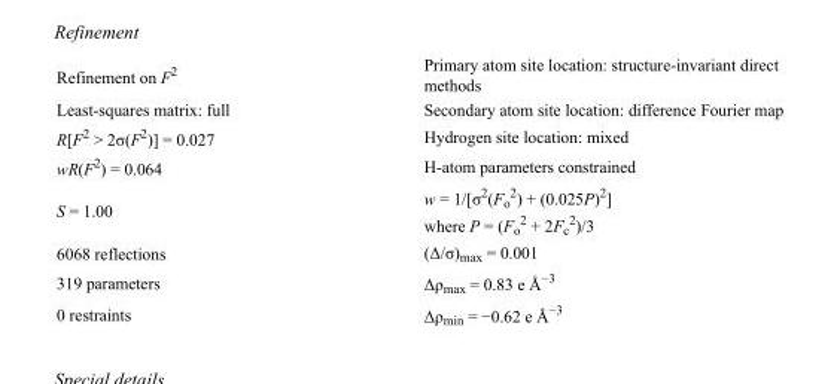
<table><tbody><tr><td>Refinement on F<sup>2</sup></td><td>Primary atom site location: structure-invariant direct methods</td></tr><tr><td>Least-squares matrix: full</td><td>Secondary atom site location: difference Fourier map</td></tr><tr><td>R[F<sup>2</sup> &gt; 2σ(F<sup>2</sup>)] = 0.027</td><td>Hydrogen site location: mixed</td></tr><tr><td>wR(F<sup>2</sup>) = 0.064</td><td>H-atom parameters constrained</td></tr><tr><td>S = 1.00</td><td>w = 1/[σ<sup>2</sup>(F<sub>o</sub> <sup>2</sup>) + (0.025P)<sup>2</sup>] where P = (F<sub>o</sub> <sup>2</sup> + 2F<sub>c</sub> <sup>2</sup>)/3</td></tr><tr><td>6068 reflections</td><td>(Δ/σ)<sub>max</sub> = 0.001</td></tr><tr><td>319 parameters</td><td>Δρ<sub>max</sub> = 0.83 e Å<sup>−3</sup></td></tr><tr><td>0 restraints</td><td>Δρ<sub>min</sub> = −0.62 e Å<sup>−3</sup></td></tr></tbody></table>